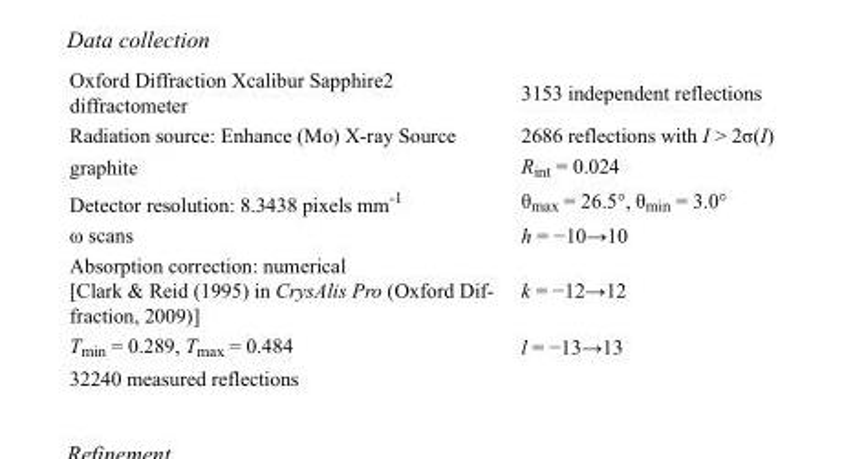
<table><tbody><tr><td>Oxford Diffraction Xcalibur Sapphire2 diffractometer</td><td>3153 independent reflections</td></tr><tr><td>Radiation source: Enhance (Mo) X-ray Source</td><td>2686 reflections with I &gt; 2σ(I)</td></tr><tr><td>graphite</td><td>R<sub>int</sub> = 0.024</td></tr><tr><td>Detector resolution: 8.3438 pixels mm<sup>-1</sup></td><td>θ<sub>max</sub> = 26.5°, θ<sub>min</sub> = 3.0°</td></tr><tr><td>ω scans</td><td>h = −10→10</td></tr><tr><td>Absorption correction: numerical [Clark &amp; Reid (1995) in CrysAlis Pro (Oxford Dif- fraction, 2009)]</td><td>k = −12→12</td></tr><tr><td>T<sub>min</sub> = 0.289, T<sub>max</sub> = 0.484</td><td>l = −13→13</td></tr><tr><td>32240 measured reflections</td><td></td></tr></tbody></table>